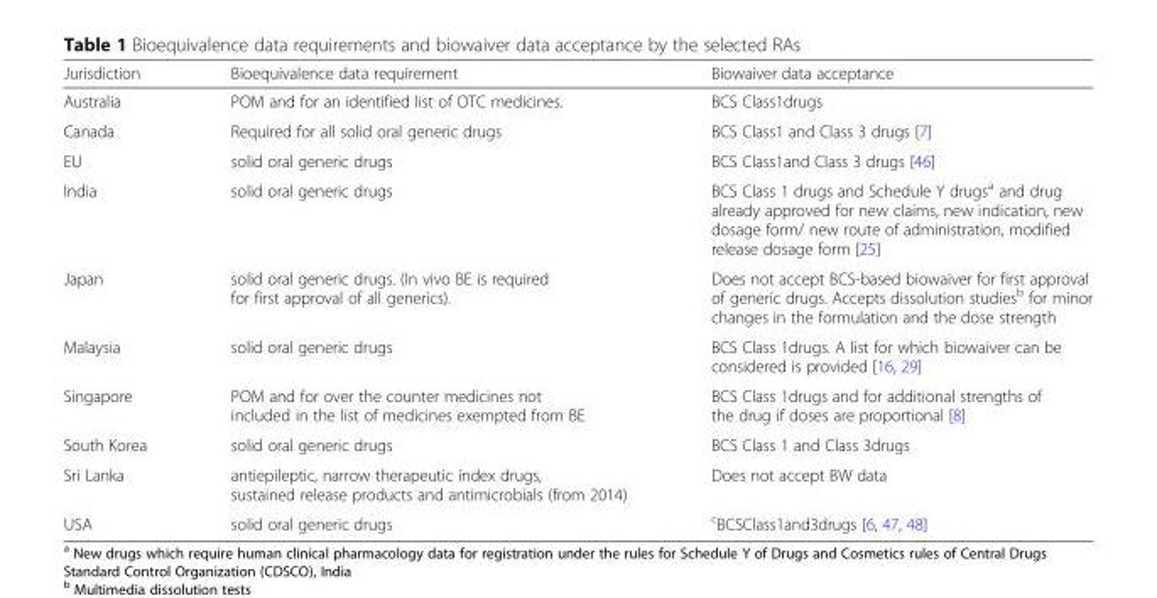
<table><thead><tr><td>Jurisdiction</td><td>Bioequivalence data requirement</td><td>Biowaiver data acceptance</td></tr></thead><tbody><tr><td>Australia</td><td>POM and for an identified list of OTC medicines.</td><td>BCS Class1drugs</td></tr><tr><td>Canada</td><td>Required for all solid oral generic drugs</td><td>BCS Class1 and Class 3 drugs [7]</td></tr><tr><td>EU</td><td>solid oral generic drugs</td><td>BCS Class1and Class 3 drugs [46]</td></tr><tr><td>India</td><td>solid oral generic drugs</td><td>BCS Class 1 drugs and Schedule Y drugs<sup>a</sup> and drug already approved for new claims, new indication, new dosage form/ new route of administration, modified release dosage form [25]</td></tr><tr><td>Japan</td><td>solid oral generic drugs. (In vivo BE is required for first approval of all generics).</td><td>Does not accept BCS-based biowaiver for first approval of generic drugs. Accepts dissolution studies<sup>b</sup> for minor changes in the formulation and the dose strength</td></tr><tr><td>Malaysia</td><td>solid oral generic drugs</td><td>BCS Class 1drugs. A list for which biowaiver can be considered is provided [16, 29]</td></tr><tr><td>Singapore</td><td>POM and for over the counter medicines not included in the list of medicines exempted from BE</td><td>BCS Class 1drugs and for additional strengths of the drug if doses are proportional [8]</td></tr><tr><td>South Korea</td><td>solid oral generic drugs</td><td>BCS Class 1 and Class 3drugs</td></tr><tr><td>Sri Lanka</td><td>antiepileptic, narrow therapeutic index drugs, sustained release products and antimicrobials (from 2014)</td><td>Does not accept BW data</td></tr><tr><td>USA</td><td>solid oral generic drugs</td><td><sup>c</sup>BCSClass1and3drugs [6, 47, 48]</td></tr></tbody></table>